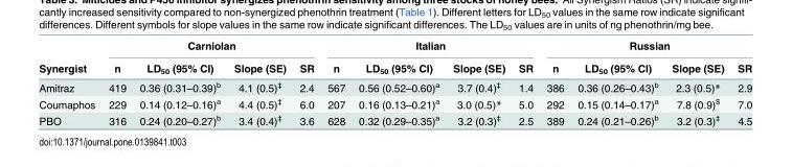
<table><thead><tr><td rowspan="2">Synergist</td><td colspan="4">Carniolan</td><td colspan="4">Italian</td><td colspan="4">Russian</td></tr><tr><td>n</td><td>LD<sub>50</sub> (95% CI)</td><td>Slope (SE)</td><td>SR</td><td>n</td><td>LD<sub>50</sub> (95% CI)</td><td>Slope (SE)</td><td>SR</td><td>n</td><td>LD<sub>50</sub> (95% CI)</td><td>Slope (SE)</td><td>SR</td></tr></thead><tbody><tr><td>Amitraz</td><td>419</td><td>0.36 (0.31–0.39)<sup>b</sup></td><td>4.1 (0.5)<sup>‡</sup></td><td>2.4</td><td>567</td><td>0.56 (0.52–0.60)<sup>a</sup></td><td>3.7 (0.4)<sup>‡</sup></td><td>1.4</td><td>386</td><td>0.36 (0.26–0.43)<sup>b</sup></td><td>2.3 (0.5)*</td><td>2.9</td></tr><tr><td>Coumaphos</td><td>229</td><td>0.14 (0.12–0.16)<sup>a</sup></td><td>4.4 (0.5)<sup>‡</sup></td><td>6.0</td><td>207</td><td>0.16 (0.13–0.21)<sup>a</sup></td><td>3.0 (0.5)*</td><td>5.0</td><td>292</td><td>0.15 (0.14–0.17)<sup>a</sup></td><td>7.8 (0.9)<sup>$</sup></td><td>7.0</td></tr><tr><td>PBO</td><td>316</td><td>0.24 (0.20–0.27)<sup>b</sup></td><td>3.4 (0.4)<sup>‡</sup></td><td>3.6</td><td>628</td><td>0.32 (0.29–0.35)<sup>a</sup></td><td>3.2 (0.3)<sup>‡</sup></td><td>2.5</td><td>389</td><td>0.24 (0.21–0.26)<sup>b</sup></td><td>3.2 (0.3)<sup>‡</sup></td><td>4.5</td></tr></tbody></table>